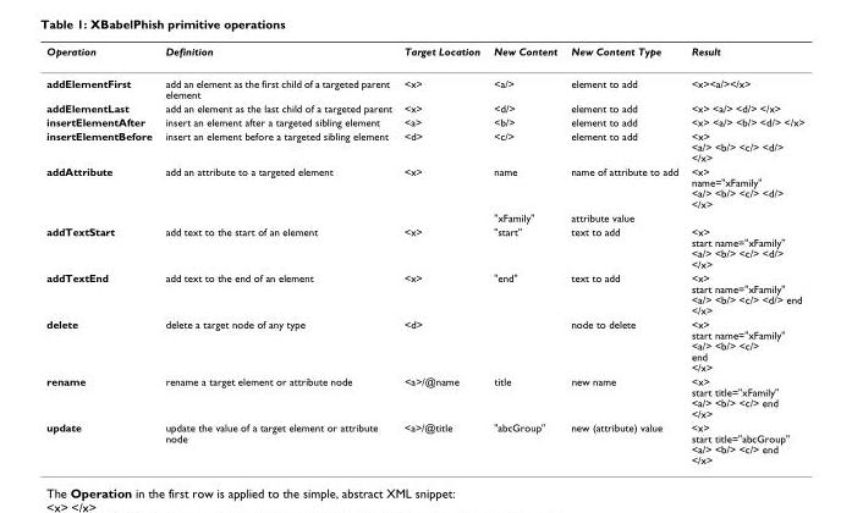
<table><thead><tr><td>Operation</td><td>Definition</td><td>Target Location</td><td>New Content</td><td>New Content Type</td><td>Result</td></tr></thead><tbody><tr><td>addElementFirst</td><td>add an element as the first child of a targeted parent element</td><td>&lt;x&gt;</td><td>&lt;a/&gt;</td><td>element to add</td><td>&lt;x&gt;&lt;a/&gt;&lt;/x&gt;</td></tr><tr><td>addElementLast</td><td>add an element as the last child of a targeted parent</td><td>&lt;x&gt;</td><td>&lt;d/&gt;</td><td>element to add</td><td>&lt;x&gt; &lt;a/&gt; &lt;d/&gt; &lt;/x&gt;</td></tr><tr><td>insertElementAfter</td><td>insert an element after a targeted sibling element</td><td>&lt;a&gt;</td><td>&lt;b/&gt;</td><td>element to add</td><td>&lt;x&gt; &lt;a/&gt; &lt;b/&gt; &lt;d/&gt; &lt;/x&gt;</td></tr><tr><td>insertElementBefore</td><td>insert an element before a targeted sibling element</td><td>&lt;d&gt;</td><td>&lt;c/&gt;</td><td>element to add</td><td>&lt;x&gt; &lt;a/&gt; &lt;b/&gt; &lt;c/&gt; &lt;d/&gt; &lt;/x&gt;</td></tr><tr><td rowspan="2">addAttribute</td><td>add an attribute to a targeted element</td><td>&lt;x&gt;</td><td>name</td><td>name of attribute to add</td><td>&lt;x&gt; name=&quot;xFamily&quot; &lt;a/&gt; &lt;b/&gt; &lt;c/&gt; &lt;d/&gt; &lt;/x&gt;</td></tr><tr><td></td><td></td><td>&quot;xFamily&quot;</td><td>attribute value</td><td></td></tr><tr><td>addTextStart</td><td>add text to the start of an element</td><td>&lt;x&gt;</td><td>&quot;start&quot;</td><td>text to add</td><td>&lt;x&gt; start name=&quot;xFamily&quot; &lt;a/&gt; &lt;b/&gt; &lt;c/&gt; &lt;d/&gt; &lt;/x&gt;</td></tr><tr><td>addTextEnd</td><td>add text to the end of an element</td><td>&lt;x&gt;</td><td>&quot;end&quot;</td><td>text to add</td><td>&lt;x&gt; start name=&quot;xFamily&quot; &lt;a/&gt; &lt;b/&gt; &lt;c/&gt; &lt;d/&gt; end &lt;/x&gt;</td></tr><tr><td>delete</td><td>delete a target node of any type</td><td>&lt;d&gt;</td><td></td><td>node to delete</td><td>&lt;x&gt; start name=&quot;xFamily&quot; &lt;a/&gt; &lt;b/&gt; &lt;c/&gt; end &lt;/x&gt;</td></tr><tr><td>rename</td><td>rename a target element or attribute node</td><td>&lt;a&gt;/@name</td><td>title</td><td>new name</td><td>&lt;x&gt; start title=&quot;xFamily&quot; &lt;a/&gt; &lt;b/&gt; &lt;c/&gt; end &lt;/x&gt;</td></tr><tr><td>update</td><td>update the value of a target element or attribute node</td><td>&lt;a&gt;/@title</td><td>&quot;abcGroup&quot;</td><td>new (attribute) value</td><td>&lt;x&gt; start title=&quot;abcGroup&quot; &lt;a/&gt; &lt;b/&gt; &lt;c/&gt; end &lt;/x&gt;</td></tr></tbody></table>